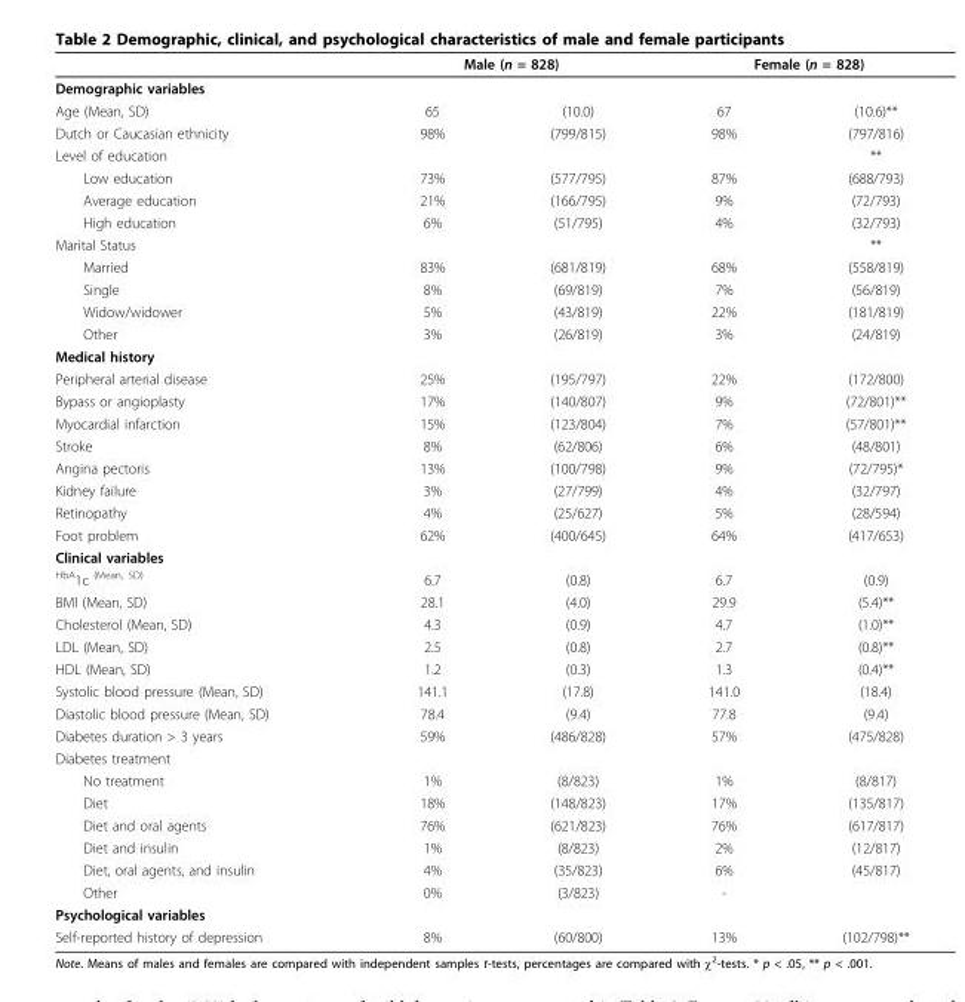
<table><thead><tr><td rowspan="2">Demographic variables</td><td colspan="2">Male (n = 828)</td><td colspan="2">Female (n = 828)</td></tr><tr><td></td><td></td><td></td><td></td></tr></thead><tbody><tr><td>Age (Mean, SD)</td><td>65</td><td>(10.0)</td><td>67</td><td>(10.6)**</td></tr><tr><td>Dutch or Caucasian ethnicity</td><td>98%</td><td>(799/815)</td><td>98%</td><td>(797/816)</td></tr><tr><td>Level of education</td><td></td><td></td><td></td><td>**</td></tr><tr><td>Low education</td><td>73%</td><td>(577/795)</td><td>87%</td><td>(688/793)</td></tr><tr><td>Average education</td><td>21%</td><td>(166/795)</td><td>9%</td><td>(72/793)</td></tr><tr><td>High education</td><td>6%</td><td>(51/795)</td><td>4%</td><td>(32/793)</td></tr><tr><td>Marital Status</td><td></td><td></td><td></td><td>**</td></tr><tr><td>Married</td><td>83%</td><td>(681/819)</td><td>68%</td><td>(558/819)</td></tr><tr><td>Single</td><td>8%</td><td>(69/819)</td><td>7%</td><td>(56/819)</td></tr><tr><td>Widow/widower</td><td>5%</td><td>(43/819)</td><td>22%</td><td>(181/819)</td></tr><tr><td>Other</td><td>3%</td><td>(26/819)</td><td>3%</td><td>(24/819)</td></tr><tr><td colspan="5">Medical history</td></tr><tr><td>Peripheral arterial disease</td><td>25%</td><td>(195/797)</td><td>22%</td><td>(172/800)</td></tr><tr><td>Bypass or angioplasty</td><td>17%</td><td>(140/807)</td><td>9%</td><td>(72/801)**</td></tr><tr><td>Myocardial infarction</td><td>15%</td><td>(123/804)</td><td>7%</td><td>(57/801)**</td></tr><tr><td>Stroke</td><td>8%</td><td>(62/806)</td><td>6%</td><td>(48/801)</td></tr><tr><td>Angina pectoris</td><td>13%</td><td>(100/798)</td><td>9%</td><td>(72/795)*</td></tr><tr><td>Kidney failure</td><td>3%</td><td>(27/799)</td><td>4%</td><td>(32/797)</td></tr><tr><td>Retinopathy</td><td>4%</td><td>(25/627)</td><td>5%</td><td>(28/594)</td></tr><tr><td>Foot problem</td><td>62%</td><td>(400/645)</td><td>64%</td><td>(417/653)</td></tr><tr><td colspan="5">Clinical variables</td></tr><tr><td><sup>HbA</sup>1c <sup>(Mean, SD)</sup></td><td>6.7</td><td>(0.8)</td><td>6.7</td><td>(0.9)</td></tr><tr><td>BMI (Mean, SD)</td><td>28.1</td><td>(4.0)</td><td>29.9</td><td>(5.4)**</td></tr><tr><td>Cholesterol (Mean, SD)</td><td>4.3</td><td>(0.9)</td><td>4.7</td><td>(1.0)**</td></tr><tr><td>LDL (Mean, SD)</td><td>2.5</td><td>(0.8)</td><td>2.7</td><td>(0.8)**</td></tr><tr><td>HDL (Mean, SD)</td><td>1.2</td><td>(0.3)</td><td>1.3</td><td>(0.4)**</td></tr><tr><td>Systolic blood pressure (Mean, SD)</td><td>141.1</td><td>(17.8)</td><td>141.0</td><td>(18.4)</td></tr><tr><td>Diastolic blood pressure (Mean, SD)</td><td>78.4</td><td>(9.4)</td><td>77.8</td><td>(9.4)</td></tr><tr><td>Diabetes duration &gt; 3 years</td><td>59%</td><td>(486/828)</td><td>57%</td><td>(475/828)</td></tr><tr><td colspan="5">Diabetes treatment</td></tr><tr><td>No treatment</td><td>1%</td><td>(8/823)</td><td>1%</td><td>(8/817)</td></tr><tr><td>Diet</td><td>18%</td><td>(148/823)</td><td>17%</td><td>(135/817)</td></tr><tr><td>Diet and oral agents</td><td>76%</td><td>(621/823)</td><td>76%</td><td>(617/817)</td></tr><tr><td>Diet and insulin</td><td>1%</td><td>(8/823)</td><td>2%</td><td>(12/817)</td></tr><tr><td>Diet, oral agents, and insulin</td><td>4%</td><td>(35/823)</td><td>6%</td><td>(45/817)</td></tr><tr><td>Other</td><td>0%</td><td>(3/823)</td><td>-</td><td></td></tr><tr><td colspan="5">Psychological variables</td></tr><tr><td>Self-reported history of depression</td><td>8%</td><td>(60/800)</td><td>13%</td><td>(102/798)**</td></tr></tbody></table>